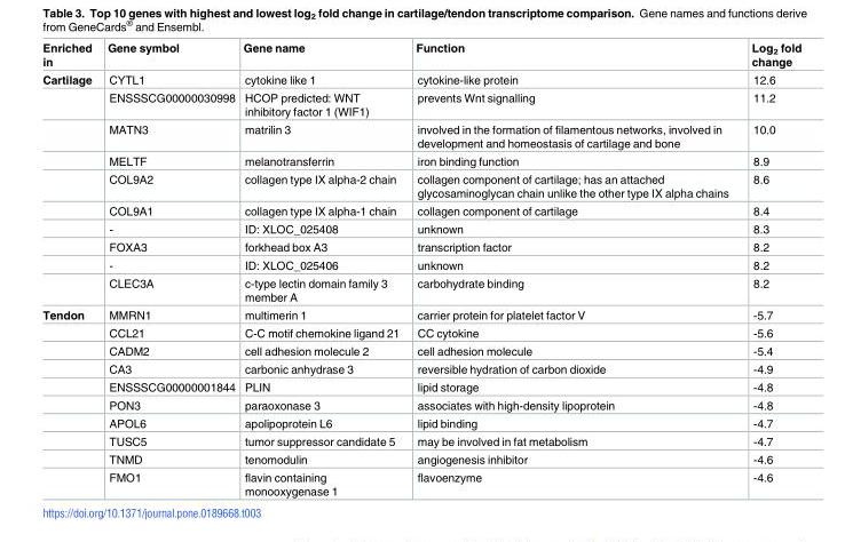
<table><thead><tr><td>Enriched in</td><td>Gene symbol</td><td>Gene name</td><td>Function</td><td>Log<sub>2</sub> fold change</td></tr></thead><tbody><tr><td rowspan="10">Cartilage</td><td>CYTL1</td><td>cytokine like 1</td><td>cytokine-like protein</td><td>12.6</td></tr><tr><td>ENSSSCG00000030998</td><td>HCOP predicted: WNT inhibitory factor 1 (WIF1)</td><td>prevents Wnt signalling</td><td>11.2</td></tr><tr><td>MATN3</td><td>matrilin 3</td><td>involved in the formation of filamentous networks, involved in development and homeostasis of cartilage and bone</td><td>10.0</td></tr><tr><td>MELTF</td><td>melanotransferrin</td><td>iron binding function</td><td>8.9</td></tr><tr><td>COL9A2</td><td>collagen type IX alpha-2 chain</td><td>collagen component of cartilage; has an attached glycosaminoglycan chain unlike the other type IX alpha chains</td><td>8.6</td></tr><tr><td>COL9A1</td><td>collagen type IX alpha-1 chain</td><td>collagen component of cartilage</td><td>8.4</td></tr><tr><td>-</td><td>ID: XLOC_025408</td><td>unknown</td><td>8.3</td></tr><tr><td>FOXA3</td><td>forkhead box A3</td><td>transcription factor</td><td>8.2</td></tr><tr><td>-</td><td>ID: XLOC_025406</td><td>unknown</td><td>8.2</td></tr><tr><td>CLEC3A</td><td>c-type lectin domain family 3 member A</td><td>carbohydrate binding</td><td>8.2</td></tr><tr><td rowspan="10">Tendon</td><td>MMRN1</td><td>multimerin 1</td><td>carrier protein for platelet factor V</td><td>-5.7</td></tr><tr><td>CCL21</td><td>C-C motif chemokine ligand 21</td><td>CC cytokine</td><td>-5.6</td></tr><tr><td>CADM2</td><td>cell adhesion molecule 2</td><td>cell adhesion molecule</td><td>-5.4</td></tr><tr><td>CA3</td><td>carbonic anhydrase 3</td><td>reversible hydration of carbon dioxide</td><td>-4.9</td></tr><tr><td>ENSSSCG00000001844</td><td>PLIN</td><td>lipid storage</td><td>-4.8</td></tr><tr><td>PON3</td><td>paraoxonase 3</td><td>associates with high-density lipoprotein</td><td>-4.8</td></tr><tr><td>APOL6</td><td>apolipoprotein L6</td><td>lipid binding</td><td>-4.7</td></tr><tr><td>TUSC5</td><td>tumor suppressor candidate 5</td><td>may be involved in fat metabolism</td><td>-4.7</td></tr><tr><td>TNMD</td><td>tenomodulin</td><td>angiogenesis inhibitor</td><td>-4.6</td></tr><tr><td>FMO1</td><td>flavin containing monooxygenase 1</td><td>flavoenzyme</td><td>-4.6</td></tr></tbody></table>